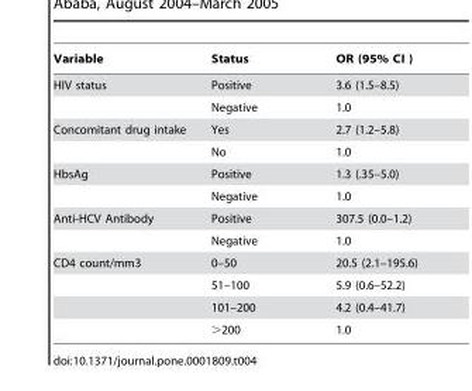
<table><thead><tr><td>Variable</td><td>Status</td><td>OR (95% CI )</td></tr></thead><tbody><tr><td rowspan="2">HIV status</td><td>Positive</td><td>3.6 (1.5–8.5)</td></tr><tr><td>Negative</td><td>1.0</td></tr><tr><td rowspan="2">Concomitant drug intake</td><td>Yes</td><td>2.7 (1.2–5.8)</td></tr><tr><td>No</td><td>1.0</td></tr><tr><td rowspan="2">HbsAg</td><td>Positive</td><td>1.3 (.35–5.0)</td></tr><tr><td>Negative</td><td>1.0</td></tr><tr><td rowspan="2">Anti-HCV Antibody</td><td>Positive</td><td>307.5 (0.0–1.2)</td></tr><tr><td>Negative</td><td>1.0</td></tr><tr><td rowspan="4">CD4 count/mm3</td><td>0–50</td><td>20.5 (2.1–195.6)</td></tr><tr><td>51–100</td><td>5.9 (0.6–52.2)</td></tr><tr><td>101–200</td><td>4.2 (0.4–41.7)</td></tr><tr><td>&gt;200</td><td>1.0</td></tr></tbody></table>